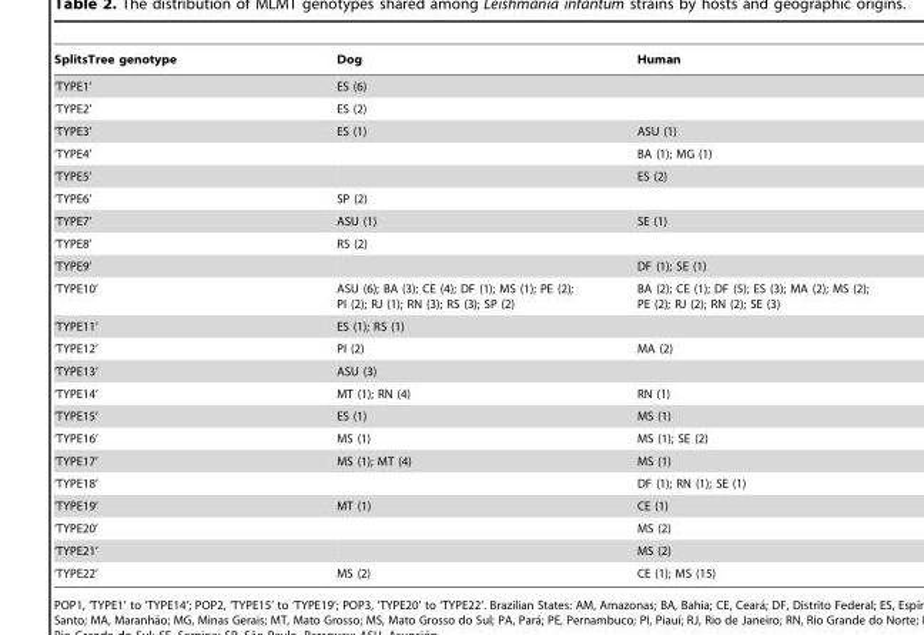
<table><thead><tr><td>SplitsTree genotype</td><td>Dog</td><td>Human</td></tr></thead><tbody><tr><td>‘TYPE1’</td><td>ES (6)</td><td></td></tr><tr><td>‘TYPE2’</td><td>ES (2)</td><td></td></tr><tr><td>‘TYPE3’</td><td>ES (1)</td><td>ASU (1)</td></tr><tr><td>‘TYPE4’</td><td></td><td>BA (1); MG (1)</td></tr><tr><td>‘TYPE5’</td><td></td><td>ES (2)</td></tr><tr><td>‘TYPE6’</td><td>SP (2)</td><td></td></tr><tr><td>‘TYPE7’</td><td>ASU (1)</td><td>SE (1)</td></tr><tr><td>‘TYPE8’</td><td>RS (2)</td><td></td></tr><tr><td>‘TYPE9’</td><td></td><td>DF (1); SE (1)</td></tr><tr><td>‘TYPE10’</td><td>ASU (6); BA (3); CE (4); DF (1); MS (1); PE (2); PI (2); RJ (1); RN (3); RS (3); SP (2)</td><td>BA (2); CE (1); DF (5); ES (3); MA (2); MS (2); PE (2); RJ (2); RN (2); SE (3)</td></tr><tr><td>‘TYPE11’</td><td>ES (1); RS (1)</td><td></td></tr><tr><td>‘TYPE12’</td><td>PI (2)</td><td>MA (2)</td></tr><tr><td>‘TYPE13’</td><td>ASU (3)</td><td></td></tr><tr><td>‘TYPE14’</td><td>MT (1); RN (4)</td><td>RN (1)</td></tr><tr><td>‘TYPE15’</td><td>ES (1)</td><td>MS (1)</td></tr><tr><td>‘TYPE16’</td><td>MS (1)</td><td>MS (1); SE (2)</td></tr><tr><td>‘TYPE17’</td><td>MS (1); MT (4)</td><td>MS (1)</td></tr><tr><td>‘TYPE18’</td><td></td><td>DF (1); RN (1); SE (1)</td></tr><tr><td>‘TYPE19’</td><td>MT (1)</td><td>CE (1)</td></tr><tr><td>‘TYPE20’</td><td></td><td>MS (2)</td></tr><tr><td>‘TYPE21’</td><td></td><td>MS (2)</td></tr><tr><td>‘TYPE22’</td><td>MS (2)</td><td>CE (1); MS (15)</td></tr></tbody></table>